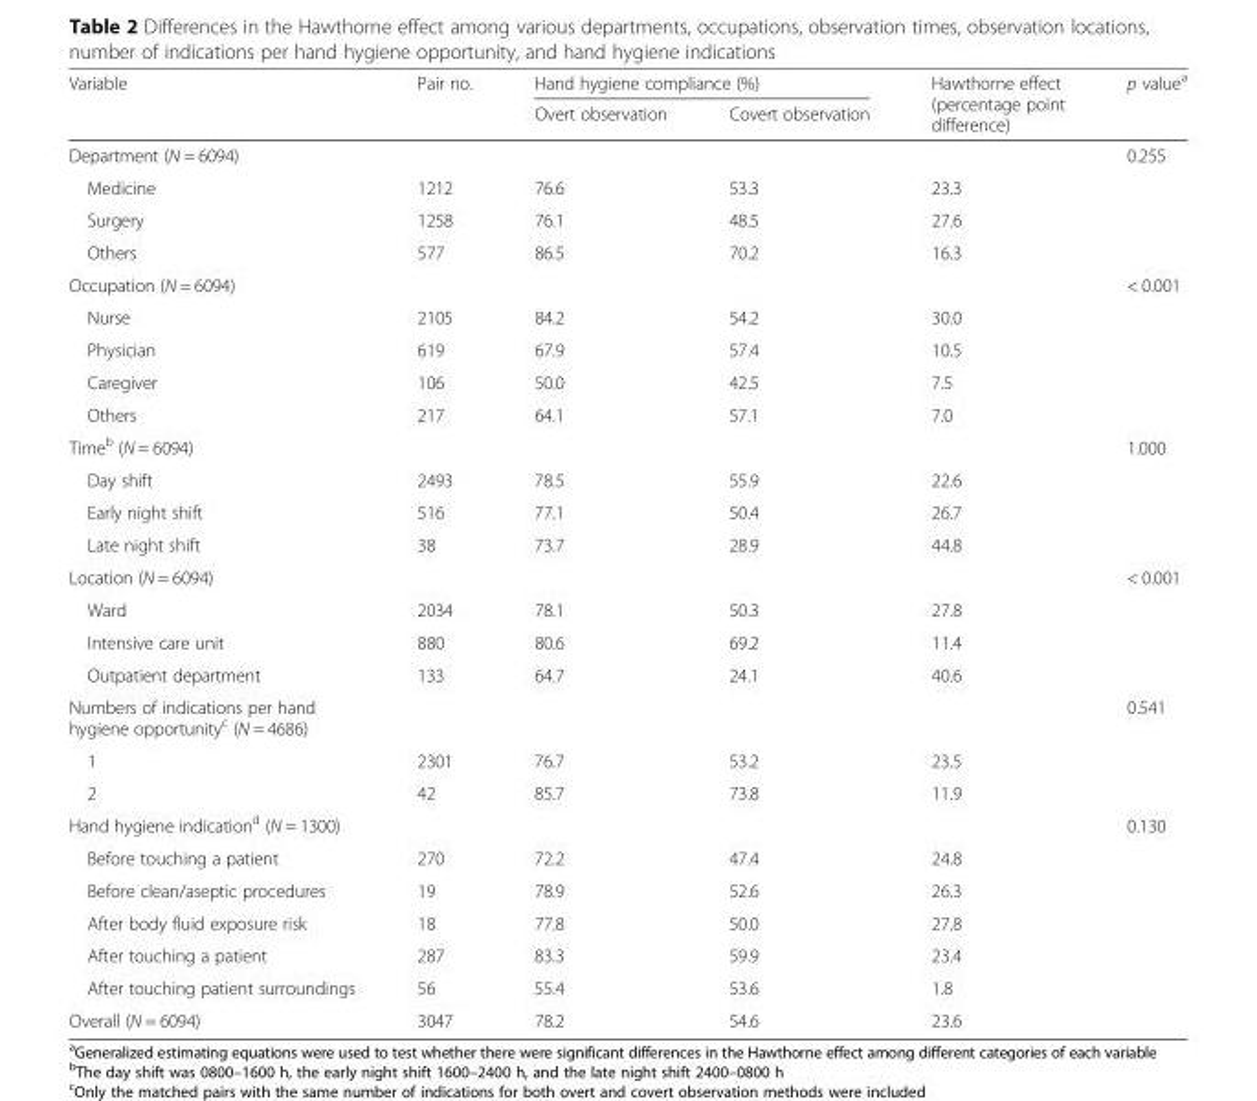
<table><thead><tr><td rowspan="2">Variable</td><td rowspan="2">Pair no.</td><td colspan="2">Hand hygiene compliance (%)</td><td rowspan="2">Hawthorne effect (percentage point difference)</td><td rowspan="2">p value<sup>a</sup></td></tr><tr><td>Overt observation</td><td>Covert observation</td></tr></thead><tbody><tr><td>Department (N = 6094)</td><td></td><td></td><td></td><td></td><td>0.255</td></tr><tr><td>Medicine</td><td>1212</td><td>76.6</td><td>53.3</td><td>23.3</td><td></td></tr><tr><td>Surgery</td><td>1258</td><td>76.1</td><td>48.5</td><td>27.6</td><td></td></tr><tr><td>Others</td><td>577</td><td>86.5</td><td>70.2</td><td>16.3</td><td></td></tr><tr><td>Occupation (N = 6094)</td><td></td><td></td><td></td><td></td><td>&lt; 0.001</td></tr><tr><td>Nurse</td><td>2105</td><td>84.2</td><td>54.2</td><td>30.0</td><td></td></tr><tr><td>Physician</td><td>619</td><td>67.9</td><td>57.4</td><td>10.5</td><td></td></tr><tr><td>Caregiver</td><td>106</td><td>50.0</td><td>42.5</td><td>7.5</td><td></td></tr><tr><td>Others</td><td>217</td><td>64.1</td><td>57.1</td><td>7.0</td><td></td></tr><tr><td>Time<sup>b</sup> (N = 6094)</td><td></td><td></td><td></td><td></td><td>1.000</td></tr><tr><td>Day shift</td><td>2493</td><td>78.5</td><td>55.9</td><td>22.6</td><td></td></tr><tr><td>Early night shift</td><td>516</td><td>77.1</td><td>50.4</td><td>26.7</td><td></td></tr><tr><td>Late night shift</td><td>38</td><td>73.7</td><td>28.9</td><td>44.8</td><td></td></tr><tr><td>Location (N = 6094)</td><td></td><td></td><td></td><td></td><td>&lt; 0.001</td></tr><tr><td>Ward</td><td>2034</td><td>78.1</td><td>50.3</td><td>27.8</td><td></td></tr><tr><td>Intensive care unit</td><td>880</td><td>80.6</td><td>69.2</td><td>11.4</td><td></td></tr><tr><td>Outpatient department</td><td>133</td><td>64.7</td><td>24.1</td><td>40.6</td><td></td></tr><tr><td>Numbers of indications per hand hygiene opportunity<sup>c</sup> (N = 4686)</td><td></td><td></td><td></td><td></td><td>0.541</td></tr><tr><td>1</td><td>2301</td><td>76.7</td><td>53.2</td><td>23.5</td><td></td></tr><tr><td>2</td><td>42</td><td>85.7</td><td>73.8</td><td>11.9</td><td></td></tr><tr><td>Hand hygiene indication<sup>d</sup> (N = 1300)</td><td></td><td></td><td></td><td></td><td>0.130</td></tr><tr><td>Before touching a patient</td><td>270</td><td>72.2</td><td>47.4</td><td>24.8</td><td></td></tr><tr><td>Before clean/aseptic procedures</td><td>19</td><td>78.9</td><td>52.6</td><td>26.3</td><td></td></tr><tr><td>After body fluid exposure risk</td><td>18</td><td>77.8</td><td>50.0</td><td>27.8</td><td></td></tr><tr><td>After touching a patient</td><td>287</td><td>83.3</td><td>59.9</td><td>23.4</td><td></td></tr><tr><td>After touching patient surroundings</td><td>56</td><td>55.4</td><td>53.6</td><td>1.8</td><td></td></tr><tr><td>Overall (N = 6094)</td><td>3047</td><td>78.2</td><td>54.6</td><td>23.6</td><td></td></tr></tbody></table>